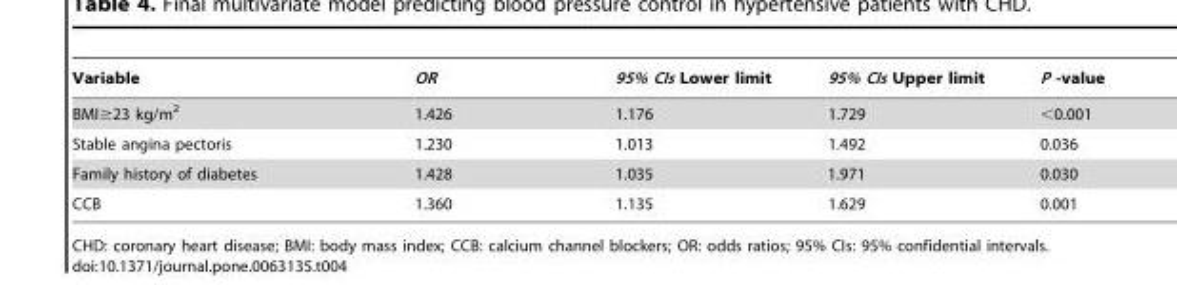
<table><thead><tr><td>Variable</td><td>OR</td><td>95% CIs Lower limit</td><td>95% CIs Upper limit</td><td>P -value</td></tr></thead><tbody><tr><td>BMI≥23 kg/m<sup>2</sup></td><td>1.426</td><td>1.176</td><td>1.729</td><td>&lt;0.001</td></tr><tr><td>Stable angina pectoris</td><td>1.230</td><td>1.013</td><td>1.492</td><td>0.036</td></tr><tr><td>Family history of diabetes</td><td>1.428</td><td>1.035</td><td>1.971</td><td>0.030</td></tr><tr><td>CCB</td><td>1.360</td><td>1.135</td><td>1.629</td><td>0.001</td></tr></tbody></table>